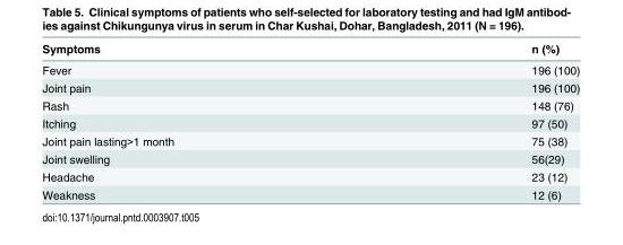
<table><thead><tr><td>Symptoms</td><td>n (%)</td></tr></thead><tbody><tr><td>Fever</td><td>196 (100)</td></tr><tr><td>Joint pain</td><td>196 (100)</td></tr><tr><td>Rash</td><td>148 (76)</td></tr><tr><td>Itching</td><td>97 (50)</td></tr><tr><td>Joint pain lasting&gt;1 month</td><td>75 (38)</td></tr><tr><td>Joint swelling</td><td>56(29)</td></tr><tr><td>Headache</td><td>23 (12)</td></tr><tr><td>Weakness</td><td>12 (6)</td></tr></tbody></table>